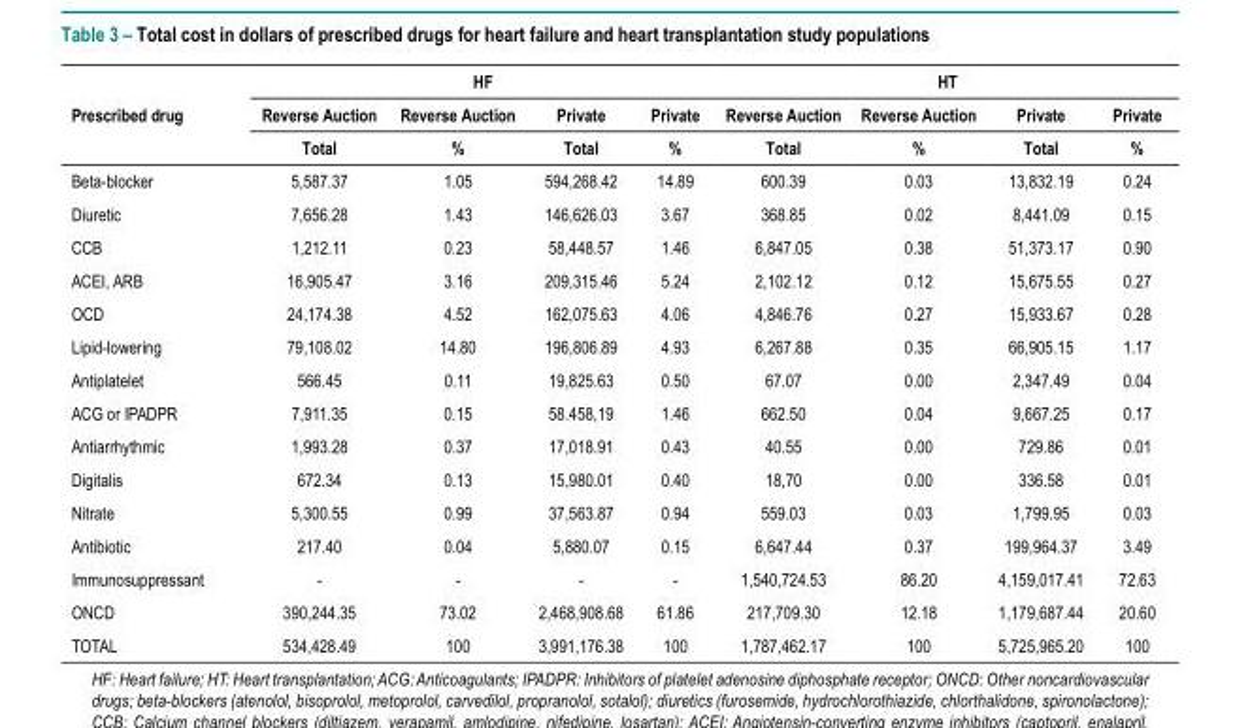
<table><thead><tr><td rowspan="3">Prescribed drug</td><td colspan="4">HF</td><td colspan="4">HT</td></tr><tr><td rowspan="2">Reverse Auction Total</td><td rowspan="2">Reverse Auction %</td><td rowspan="2">Private Total</td><td rowspan="2">Private %</td><td rowspan="2">Reverse Auction Total</td><td rowspan="2">Reverse Auction %</td><td rowspan="2">Private Total</td><td rowspan="2">Private %</td></tr><tr></tr></thead><tbody><tr><td>Beta-blocker</td><td>5,587.37</td><td>1.05</td><td>594,268.42</td><td>14.89</td><td>600.39</td><td>0.03</td><td>13,832.19</td><td>0.24</td></tr><tr><td>Diuretic</td><td>7,656.28</td><td>1.43</td><td>146,626.03</td><td>3.67</td><td>368.85</td><td>0.02</td><td>8,441.09</td><td>0.15</td></tr><tr><td>CCB</td><td>1,212.11</td><td>0.23</td><td>58,448.57</td><td>1.46</td><td>6,847.05</td><td>0.38</td><td>51,373.17</td><td>0.90</td></tr><tr><td>ACEI, ARB</td><td>16,905.47</td><td>3.16</td><td>209,315.46</td><td>5.24</td><td>2,102.12</td><td>0.12</td><td>15,675.55</td><td>0.27</td></tr><tr><td>OCD</td><td>24,174.38</td><td>4.52</td><td>162,075.63</td><td>4.06</td><td>4,846.76</td><td>0.27</td><td>15,933.67</td><td>0.28</td></tr><tr><td>Lipid-lowering</td><td>79,108.02</td><td>14.80</td><td>196,806.89</td><td>4.93</td><td>6,267.88</td><td>0.35</td><td>66,905.15</td><td>1.17</td></tr><tr><td>Antiplatelet</td><td>566.45</td><td>0.11</td><td>19,825.63</td><td>0.50</td><td>67.07</td><td>0.00</td><td>2,347.49</td><td>0.04</td></tr><tr><td>ACG or IPADPR</td><td>7,911.35</td><td>0.15</td><td>58.458,19</td><td>1.46</td><td>662.50</td><td>0.04</td><td>9,667.25</td><td>0.17</td></tr><tr><td>Antiarrhythmic</td><td>1,993.28</td><td>0.37</td><td>17,018.91</td><td>0.43</td><td>40.55</td><td>0.00</td><td>729.86</td><td>0.01</td></tr><tr><td>Digitalis</td><td>672.34</td><td>0.13</td><td>15,980.01</td><td>0.40</td><td>18,70</td><td>0.00</td><td>336.58</td><td>0.01</td></tr><tr><td>Nitrate</td><td>5,300.55</td><td>0.99</td><td>37,563.87</td><td>0.94</td><td>559.03</td><td>0.03</td><td>1,799.95</td><td>0.03</td></tr><tr><td>Antibiotic</td><td>217.40</td><td>0.04</td><td>5,880.07</td><td>0.15</td><td>6,647.44</td><td>0.37</td><td>199,964.37</td><td>3.49</td></tr><tr><td>Immunosuppressant</td><td>-</td><td>-</td><td>-</td><td>-</td><td>1,540,724.53</td><td>86.20</td><td>4,159,017.41</td><td>72.63</td></tr><tr><td>ONCD</td><td>390,244.35</td><td>73.02</td><td>2,468,908.68</td><td>61.86</td><td>217,709.30</td><td>12.18</td><td>1,179,687.44</td><td>20.60</td></tr><tr><td>TOTAL</td><td>534,428.49</td><td>100</td><td>3,991,176.38</td><td>100</td><td>1,787,462.17</td><td>100</td><td>5,725,965.20</td><td>100</td></tr></tbody></table>